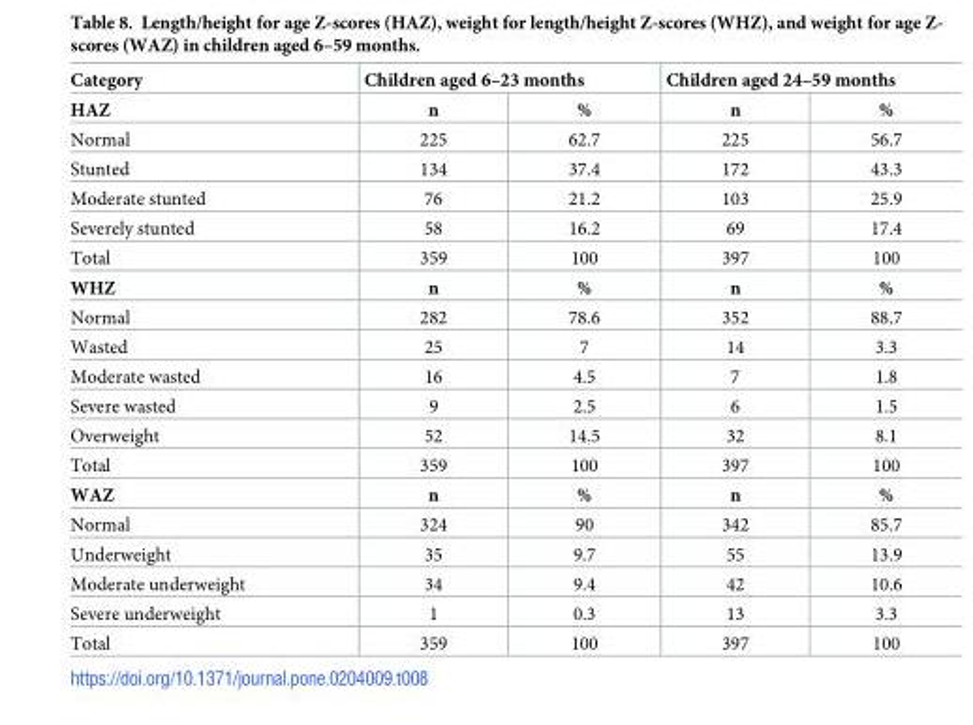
<table><thead><tr><td rowspan="2">Category HAZ</td><td colspan="2">Children aged 6–23 months</td><td colspan="2">Children aged 24–59 months</td></tr><tr><td>n</td><td>%</td><td>n</td><td>%</td></tr></thead><tbody><tr><td>Normal</td><td>225</td><td>62.7</td><td>225</td><td>56.7</td></tr><tr><td>Stunted</td><td>134</td><td>37.4</td><td>172</td><td>43.3</td></tr><tr><td>Moderate stunted</td><td>76</td><td>21.2</td><td>103</td><td>25.9</td></tr><tr><td>Severely stunted</td><td>58</td><td>16.2</td><td>69</td><td>17.4</td></tr><tr><td>Total</td><td>359</td><td>100</td><td>397</td><td>100</td></tr><tr><td>WHZ</td><td>n</td><td>%</td><td>n</td><td>%</td></tr><tr><td>Normal</td><td>282</td><td>78.6</td><td>352</td><td>88.7</td></tr><tr><td>Wasted</td><td>25</td><td>7</td><td>14</td><td>3.3</td></tr><tr><td>Moderate wasted</td><td>16</td><td>4.5</td><td>7</td><td>1.8</td></tr><tr><td>Severe wasted</td><td>9</td><td>2.5</td><td>6</td><td>1.5</td></tr><tr><td>Overweight</td><td>52</td><td>14.5</td><td>32</td><td>8.1</td></tr><tr><td>Total</td><td>359</td><td>100</td><td>397</td><td>100</td></tr><tr><td>WAZ</td><td>n</td><td>%</td><td>n</td><td>%</td></tr><tr><td>Normal</td><td>324</td><td>90</td><td>342</td><td>85.7</td></tr><tr><td>Underweight</td><td>35</td><td>9.7</td><td>55</td><td>13.9</td></tr><tr><td>Moderate underweight</td><td>34</td><td>9.4</td><td>42</td><td>10.6</td></tr><tr><td>Severe underweight</td><td>1</td><td>0.3</td><td>13</td><td>3.3</td></tr><tr><td>Total</td><td>359</td><td>100</td><td>397</td><td>100</td></tr></tbody></table>